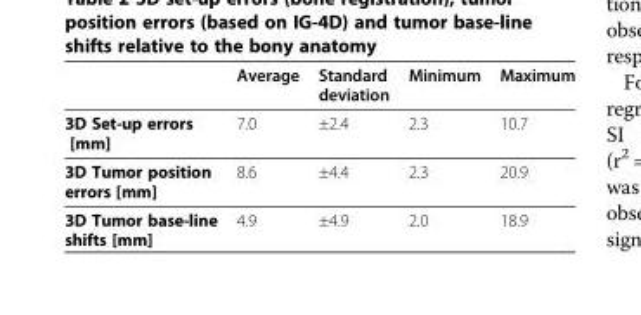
<table><thead><tr><td></td><td>Average</td><td>Standard deviation</td><td>Minimum</td><td>Maximum</td></tr></thead><tbody><tr><td>3D Set-up errors [mm]</td><td>7.0</td><td>±2.4</td><td>2.3</td><td>10.7</td></tr><tr><td>3D Tumor position errors [mm]</td><td>8.6</td><td>±4.4</td><td>2.3</td><td>20.9</td></tr><tr><td>3D Tumor base-line shifts [mm]</td><td>4.9</td><td>±4.9</td><td>2.0</td><td>18.9</td></tr></tbody></table>